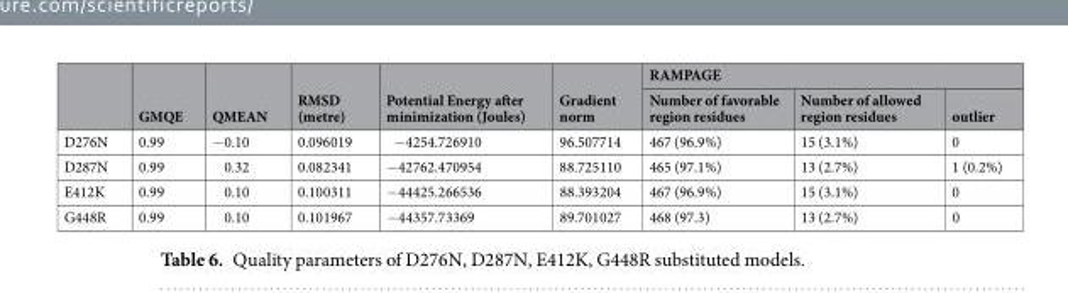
<table><thead><tr><td rowspan="2"></td><td rowspan="2">GMQE</td><td rowspan="2">QMEAN</td><td rowspan="2">RMSD (metre)</td><td rowspan="2">Potential Energy after minimization (Joules)</td><td rowspan="2">Gradient norm</td><td colspan="3">RAMPAGE</td></tr><tr><td>Number of favorable region residues</td><td>Number of allowed region residues</td><td>outlier</td></tr></thead><tbody><tr><td>D276N</td><td>0.99</td><td>−0.10</td><td>0.096019</td><td>−4254.726910</td><td>96.507714</td><td>467 (96.9%)</td><td>15 (3.1%)</td><td>0</td></tr><tr><td>D287N</td><td>0.99</td><td>0.32</td><td>0.082341</td><td>−42762.470954</td><td>88.725110</td><td>465 (97.1%)</td><td>13 (2.7%)</td><td>1 (0.2%)</td></tr><tr><td>E412K</td><td>0.99</td><td>0.10</td><td>0.100311</td><td>−44425.266536</td><td>88.393204</td><td>467 (96.9%)</td><td>15 (3.1%)</td><td>0</td></tr><tr><td>G448R</td><td>0.99</td><td>0.10</td><td>0.101967</td><td>−44357.73369</td><td>89.701027</td><td>468 (97.3)</td><td>13 (2.7%)</td><td>0</td></tr></tbody></table>